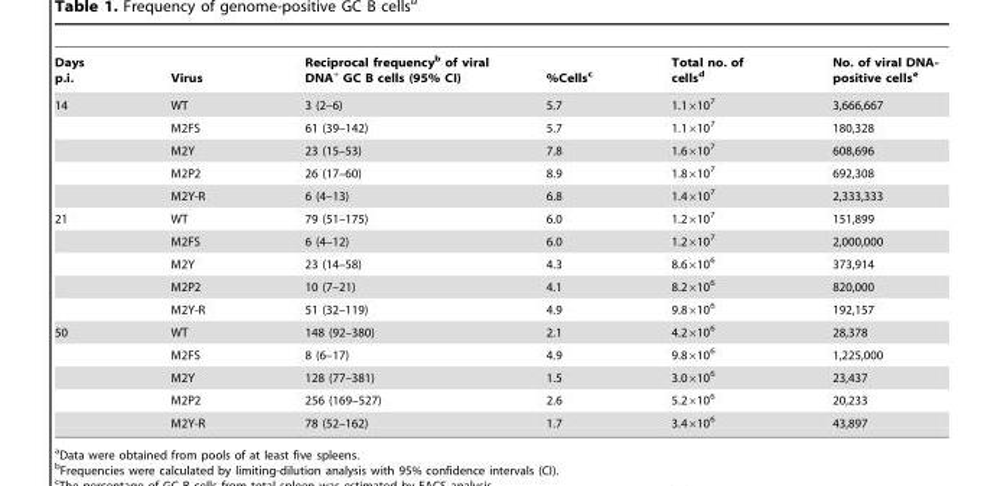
<table><thead><tr><td>Days p.i.</td><td>Virus</td><td>Reciprocal frequency<sup>b</sup> of viral DNA<sup>+</sup> GC B cells (95% CI)</td><td>%Cells<sup>c</sup></td><td>Total no. of cells<sup>d</sup></td><td>No. of viral DNA- positive cells<sup>e</sup></td></tr></thead><tbody><tr><td rowspan="5">14</td><td>WT</td><td>3 (2–6)</td><td>5.7</td><td>1.1×10<sup>7</sup></td><td>3,666,667</td></tr><tr><td>M2FS</td><td>61 (39–142)</td><td>5.7</td><td>1.1×10<sup>7</sup></td><td>180,328</td></tr><tr><td>M2Y</td><td>23 (15–53)</td><td>7.8</td><td>1.6×10<sup>7</sup></td><td>608,696</td></tr><tr><td>M2P2</td><td>26 (17–60)</td><td>8.9</td><td>1.8×10<sup>7</sup></td><td>692,308</td></tr><tr><td>M2Y-R</td><td>6 (4–13)</td><td>6.8</td><td>1.4×10<sup>7</sup></td><td>2,333,333</td></tr><tr><td rowspan="5">21</td><td>WT</td><td>79 (51–175)</td><td>6.0</td><td>1.2×10<sup>7</sup></td><td>151,899</td></tr><tr><td>M2FS</td><td>6 (4–12)</td><td>6.0</td><td>1.2×10<sup>7</sup></td><td>2,000,000</td></tr><tr><td>M2Y</td><td>23 (14–58)</td><td>4.3</td><td>8.6×10<sup>6</sup></td><td>373,914</td></tr><tr><td>M2P2</td><td>10 (7–21)</td><td>4.1</td><td>8.2×10<sup>6</sup></td><td>820,000</td></tr><tr><td>M2Y-R</td><td>51 (32–119)</td><td>4.9</td><td>9.8×10<sup>6</sup></td><td>192,157</td></tr><tr><td rowspan="5">50</td><td>WT</td><td>148 (92–380)</td><td>2.1</td><td>4.2×10<sup>6</sup></td><td>28,378</td></tr><tr><td>M2FS</td><td>8 (6–17)</td><td>4.9</td><td>9.8×10<sup>6</sup></td><td>1,225,000</td></tr><tr><td>M2Y</td><td>128 (77–381)</td><td>1.5</td><td>3.0×10<sup>6</sup></td><td>23,437</td></tr><tr><td>M2P2</td><td>256 (169–527)</td><td>2.6</td><td>5.2×10<sup>6</sup></td><td>20,233</td></tr><tr><td>M2Y-R</td><td>78 (52–162)</td><td>1.7</td><td>3.4×10<sup>6</sup></td><td>43,897</td></tr></tbody></table>